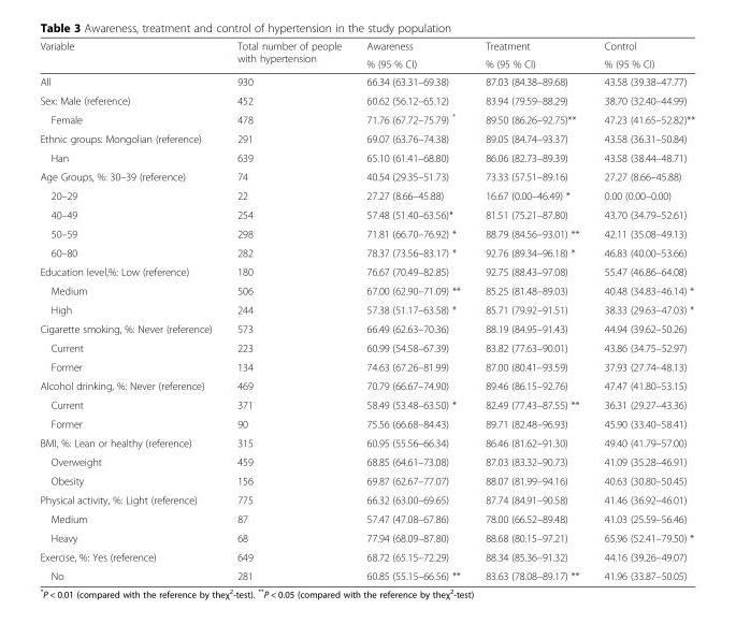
<table><thead><tr><td rowspan="2">Variable</td><td rowspan="2">Total number of people with hypertension</td><td rowspan="2">Awareness % (95 % CI)</td><td rowspan="2">Treatment % (95 % CI)</td><td rowspan="2">Control % (95 % CI)</td></tr><tr></tr></thead><tbody><tr><td>All</td><td>930</td><td>66.34 (63.31–69.38)</td><td>87.03 (84.38–89.68)</td><td>43.58 (39.38–47.77)</td></tr><tr><td>Sex: Male (reference)</td><td>452</td><td>60.62 (56.12–65.12)</td><td>83.94 (79.59–88.29)</td><td>38.70 (32.40–44.99)</td></tr><tr><td>Female</td><td>478</td><td>71.76 (67.72–75.79) *</td><td>89.50 (86.26–92.75)**</td><td>47.23 (41.65–52.82)**</td></tr><tr><td>Ethnic groups: Mongolian (reference)</td><td>291</td><td>69.07 (63.76–74.38)</td><td>89.05 (84.74–93.37)</td><td>43.58 (36.31–50.84)</td></tr><tr><td>Han</td><td>639</td><td>65.10 (61.41–68.80)</td><td>86.06 (82.73–89.39)</td><td>43.58 (38.44–48.71)</td></tr><tr><td>Age Groups, %: 30–39 (reference)</td><td>74</td><td>40.54 (29.35–51.73)</td><td>73.33 (57.51–89.16)</td><td>27.27 (8.66–45.88)</td></tr><tr><td>20–29</td><td>22</td><td>27.27 (8.66–45.88)</td><td>16.67 (0.00–46.49) *</td><td>0.00 (0.00–0.00)</td></tr><tr><td>40–49</td><td>254</td><td>57.48 (51.40–63.56)*</td><td>81.51 (75.21–87.80)</td><td>43.70 (34.79–52.61)</td></tr><tr><td>50–59</td><td>298</td><td>71.81 (66.70–76.92) *</td><td>88.79 (84.56–93.01) **</td><td>42.11 (35.08–49.13)</td></tr><tr><td>60–80</td><td>282</td><td>78.37 (73.56–83.17) *</td><td>92.76 (89.34–96.18) *</td><td>46.83 (40.00–53.66)</td></tr><tr><td>Education level,%: Low (reference)</td><td>180</td><td>76.67 (70.49–82.85)</td><td>92.75 (88.43–97.08)</td><td>55.47 (46.86–64.08)</td></tr><tr><td>Medium</td><td>506</td><td>67.00 (62.90–71.09) **</td><td>85.25 (81.48–89.03)</td><td>40.48 (34.83–46.14) *</td></tr><tr><td>High</td><td>244</td><td>57.38 (51.17–63.58) *</td><td>85.71 (79.92–91.51)</td><td>38.33 (29.63–47.03) *</td></tr><tr><td>Cigarette smoking, %: Never (reference)</td><td>573</td><td>66.49 (62.63–70.36)</td><td>88.19 (84.95–91.43)</td><td>44.94 (39.62–50.26)</td></tr><tr><td>Current</td><td>223</td><td>60.99 (54.58–67.39)</td><td>83.82 (77.63–90.01)</td><td>43.86 (34.75–52.97)</td></tr><tr><td>Former</td><td>134</td><td>74.63 (67.26–81.99)</td><td>87.00 (80.41–93.59)</td><td>37.93 (27.74–48.13)</td></tr><tr><td>Alcohol drinking, %: Never (reference)</td><td>469</td><td>70.79 (66.67–74.90)</td><td>89.46 (86.15–92.76)</td><td>47.47 (41.80–53.15)</td></tr><tr><td>Current</td><td>371</td><td>58.49 (53.48–63.50) *</td><td>82.49 (77.43–87.55) **</td><td>36.31 (29.27–43.36)</td></tr><tr><td>Former</td><td>90</td><td>75.56 (66.68–84.43)</td><td>89.71 (82.48–96.93)</td><td>45.90 (33.40–58.41)</td></tr><tr><td>BMI, %: Lean or healthy (reference)</td><td>315</td><td>60.95 (55.56–66.34)</td><td>86.46 (81.62–91.30)</td><td>49.40 (41.79–57.00)</td></tr><tr><td>Overweight</td><td>459</td><td>68.85 (64.61–73.08)</td><td>87.03 (83.32–90.73)</td><td>41.09 (35.28–46.91)</td></tr><tr><td>Obesity</td><td>156</td><td>69.87 (62.67–77.07)</td><td>88.07 (81.99–94.16)</td><td>40.63 (30.80–50.45)</td></tr><tr><td>Physical activity, %: Light (reference)</td><td>775</td><td>66.32 (63.00–69.65)</td><td>87.74 (84.91–90.58)</td><td>41.46 (36.92–46.01)</td></tr><tr><td>Medium</td><td>87</td><td>57.47 (47.08–67.86)</td><td>78.00 (66.52–89.48)</td><td>41.03 (25.59–56.46)</td></tr><tr><td>Heavy</td><td>68</td><td>77.94 (68.09–87.80)</td><td>88.68 (80.15–97.21)</td><td>65.96 (52.41–79.50) *</td></tr><tr><td>Exercise, %: Yes (reference)</td><td>649</td><td>68.72 (65.15–72.29)</td><td>88.34 (85.36–91.32)</td><td>44.16 (39.26–49.07)</td></tr><tr><td>No</td><td>281</td><td>60.85 (55.15–66.56) **</td><td>83.63 (78.08–89.17) **</td><td>41.96 (33.87–50.05)</td></tr></tbody></table>